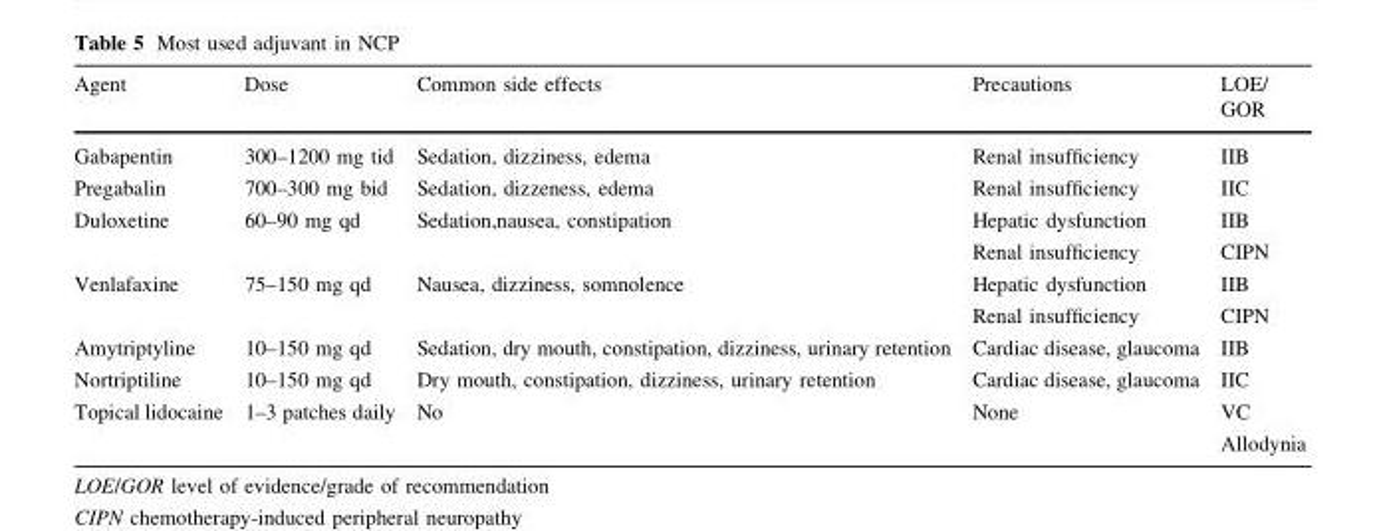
<table><thead><tr><td>Agent</td><td>Dose</td><td>Common side effects</td><td>Precautions</td><td>LOE/ GOR</td></tr></thead><tbody><tr><td>Gabapentin</td><td>300–1200 mg tid</td><td>Sedation, dizziness, edema</td><td>Renal insufficiency</td><td>IIB</td></tr><tr><td>Pregabalin</td><td>700–300 mg bid</td><td>Sedation, dizzeness, edema</td><td>Renal insufficiency</td><td>IIC</td></tr><tr><td>Duloxetine</td><td>60–90 mg qd</td><td>Sedation,nausea, constipation</td><td>Hepatic dysfunction Renal insufficiency</td><td>IIB CIPN</td></tr><tr><td>Venlafaxine</td><td>75–150 mg qd</td><td>Nausea, dizziness, somnolence</td><td>Hepatic dysfunction Renal insufficiency</td><td>IIB CIPN</td></tr><tr><td>Amytriptyline</td><td>10–150 mg qd</td><td>Sedation, dry mouth, constipation, dizziness, urinary retention</td><td>Cardiac disease, glaucoma</td><td>IIB</td></tr><tr><td>Nortriptiline</td><td>10–150 mg qd</td><td>Dry mouth, constipation, dizziness, urinary retention</td><td>Cardiac disease, glaucoma</td><td>IIC</td></tr><tr><td>Topical lidocaine</td><td>1–3 patches daily</td><td>No</td><td>None</td><td>VC Allodynia</td></tr></tbody></table>